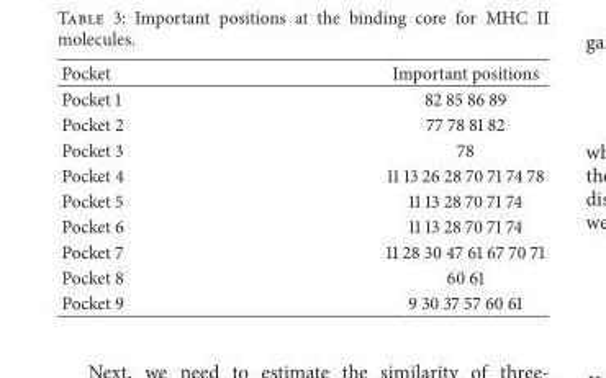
<table><thead><tr><td>Pocket</td><td>Important positions</td></tr></thead><tbody><tr><td>Pocket 1</td><td>82 85 86 89</td></tr><tr><td>Pocket 2</td><td>77 78 81 82</td></tr><tr><td>Pocket 3</td><td>78</td></tr><tr><td>Pocket 4</td><td>11 13 26 28 70 71 74 78</td></tr><tr><td>Pocket 5</td><td>11 13 28 70 71 74</td></tr><tr><td>Pocket 6</td><td>11 13 28 70 71 74</td></tr><tr><td>Pocket 7</td><td>11 28 30 47 61 67 70 71</td></tr><tr><td>Pocket 8</td><td>60 61</td></tr><tr><td>Pocket 9</td><td>9 30 37 57 60 61</td></tr></tbody></table>